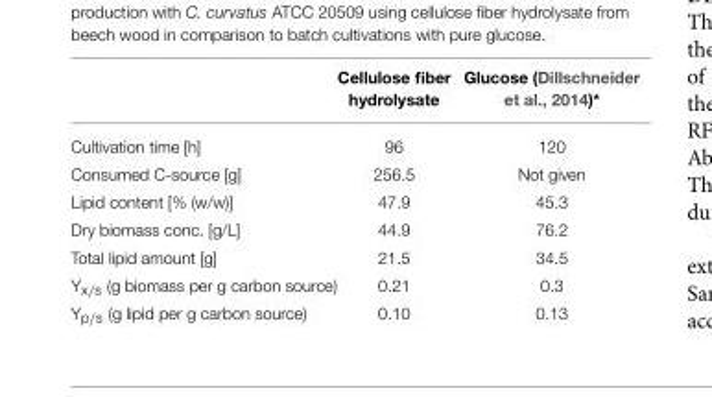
<table><thead><tr><td></td><td>Cellulose fiber hydrolysate</td><td>Glucose (Dillschneider et al., 2014)*</td></tr></thead><tbody><tr><td>Cultivation time [h]</td><td>96</td><td>120</td></tr><tr><td>Consumed C-source [g]</td><td>256.5</td><td>Not given</td></tr><tr><td>Lipid content [% (w/w)]</td><td>47.9</td><td>45.3</td></tr><tr><td>Dry biomass conc. [g/L]</td><td>44.9</td><td>76.2</td></tr><tr><td>Total lipid amount [g]</td><td>21.5</td><td>34.5</td></tr><tr><td>Y<sub>x/s</sub> (g biomass per g carbon source)</td><td>0.21</td><td>0.3</td></tr><tr><td>Y<sub>p/s</sub> (g lipid per g carbon source)</td><td>0.10</td><td>0.13</td></tr></tbody></table>